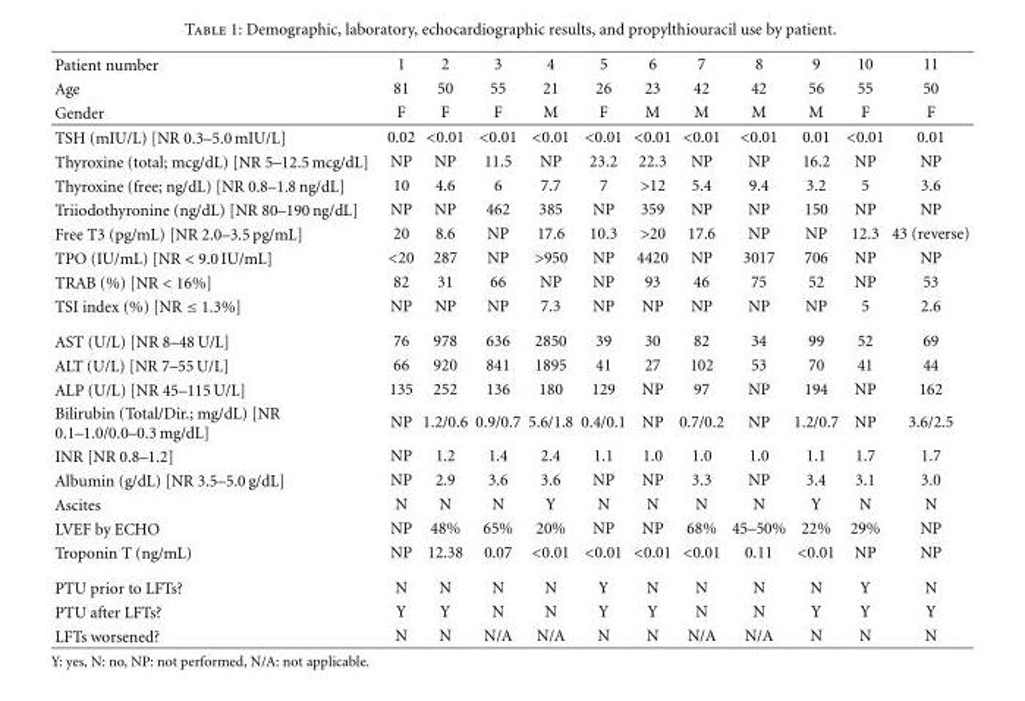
<table><thead><tr><td rowspan="3">Patient number Age Gender</td><td rowspan="3">1 81 F</td><td rowspan="3">2 50 F</td><td rowspan="3">3 55 F</td><td rowspan="3">4 21 M</td><td rowspan="3">5 26 F</td><td rowspan="3">6 23 M</td><td rowspan="3">7 42 M</td><td rowspan="3">8 42 M</td><td rowspan="3">9 56 M</td><td rowspan="3">10 55 F</td><td rowspan="3">11 50 F</td></tr><tr></tr><tr></tr></thead><tbody><tr><td>TSH (mIU/L) [NR 0.3–5.0 mIU/L]</td><td>0.02</td><td>&lt;0.01</td><td>&lt;0.01</td><td>&lt;0.01</td><td>&lt;0.01</td><td>&lt;0.01</td><td>&lt;0.01</td><td>&lt;0.01</td><td>0.01</td><td>&lt;0.01</td><td>0.01</td></tr><tr><td>Thyroxine (total; mcg/dL) [NR 5–12.5 mcg/dL]</td><td>NP</td><td>NP</td><td>11.5</td><td>NP</td><td>23.2</td><td>22.3</td><td>NP</td><td>NP</td><td>16.2</td><td>NP</td><td>NP</td></tr><tr><td>Thyroxine (free; ng/dL) [NR 0.8–1.8 ng/dL]</td><td>10</td><td>4.6</td><td>6</td><td>7.7</td><td>7</td><td>&gt;12</td><td>5.4</td><td>9.4</td><td>3.2</td><td>5</td><td>3.6</td></tr><tr><td>Triiodothyronine (ng/dL) [NR 80–190 ng/dL]</td><td>NP</td><td>NP</td><td>462</td><td>385</td><td>NP</td><td>359</td><td>NP</td><td>NP</td><td>150</td><td>NP</td><td>NP</td></tr><tr><td>Free T3 (pg/mL) [NR 2.0–3.5 pg/mL]</td><td>20</td><td>8.6</td><td>NP</td><td>17.6</td><td>10.3</td><td>&gt;20</td><td>17.6</td><td>NP</td><td>NP</td><td>12.3</td><td>43 (reverse)</td></tr><tr><td>TPO (IU/mL) [NR &lt; 9.0 IU/mL]</td><td>&lt;20</td><td>287</td><td>NP</td><td>&gt;950</td><td>NP</td><td>4420</td><td>NP</td><td>3017</td><td>706</td><td>NP</td><td>NP</td></tr><tr><td>TRAB (%) [NR &lt; 16%]</td><td>82</td><td>31</td><td>66</td><td>NP</td><td>NP</td><td>93</td><td>46</td><td>75</td><td>52</td><td>NP</td><td>53</td></tr><tr><td>TSI index (%) [NR ≤ 1.3%]</td><td>NP</td><td>NP</td><td>NP</td><td>7.3</td><td>NP</td><td>NP</td><td>NP</td><td>NP</td><td>NP</td><td>5</td><td>2.6</td></tr><tr><td>AST (U/L) [NR 8–48 U/L]</td><td>76</td><td>978</td><td>636</td><td>2850</td><td>39</td><td>30</td><td>82</td><td>34</td><td>99</td><td>52</td><td>69</td></tr><tr><td>ALT (U/L) [NR 7–55 U/L]</td><td>66</td><td>920</td><td>841</td><td>1895</td><td>41</td><td>27</td><td>102</td><td>53</td><td>70</td><td>41</td><td>44</td></tr><tr><td>ALP (U/L) [NR 45–115 U/L]</td><td>135</td><td>252</td><td>136</td><td>180</td><td>129</td><td>NP</td><td>97</td><td>NP</td><td>194</td><td>NP</td><td>162</td></tr><tr><td>Bilirubin (Total/Dir.; mg/dL) [NR 0.1–1.0/0.0–0.3 mg/dL]</td><td>NP</td><td>1.2/0.6</td><td>0.9/0.7</td><td>5.6/1.8</td><td>0.4/0.1</td><td>NP</td><td>0.7/0.2</td><td>NP</td><td>1.2/0.7</td><td>NP</td><td>3.6/2.5</td></tr><tr><td>INR [NR 0.8–1.2]</td><td>NP</td><td>1.2</td><td>1.4</td><td>2.4</td><td>1.1</td><td>1.0</td><td>1.0</td><td>1.0</td><td>1.1</td><td>1.7</td><td>1.7</td></tr><tr><td>Albumin (g/dL) [NR 3.5–5.0 g/dL]</td><td>NP</td><td>2.9</td><td>3.6</td><td>3.6</td><td>NP</td><td>NP</td><td>3.3</td><td>NP</td><td>3.4</td><td>3.1</td><td>3.0</td></tr><tr><td>Ascites</td><td>N</td><td>N</td><td>N</td><td>Y</td><td>N</td><td>N</td><td>N</td><td>N</td><td>Y</td><td>N</td><td>N</td></tr><tr><td>LVEF by ECHO</td><td>NP</td><td>48%</td><td>65%</td><td>20%</td><td>NP</td><td>NP</td><td>68%</td><td>45–50%</td><td>22%</td><td>29%</td><td>NP</td></tr><tr><td>Troponin T (ng/mL)</td><td>NP</td><td>12.38</td><td>0.07</td><td>&lt;0.01</td><td>&lt;0.01</td><td>&lt;0.01</td><td>&lt;0.01</td><td>0.11</td><td>&lt;0.01</td><td>NP</td><td>NP</td></tr><tr><td>PTU prior to LFTs?</td><td>N</td><td>N</td><td>N</td><td>N</td><td>Y</td><td>N</td><td>N</td><td>N</td><td>N</td><td>Y</td><td>N</td></tr><tr><td>PTU after LFTs?</td><td>Y</td><td>Y</td><td>N</td><td>N</td><td>Y</td><td>Y</td><td>N</td><td>N</td><td>Y</td><td>Y</td><td>Y</td></tr><tr><td>LFTs worsened?</td><td>N</td><td>N</td><td>N/A</td><td>N/A</td><td>N</td><td>N</td><td>N/A</td><td>N/A</td><td>N</td><td>N</td><td>N</td></tr></tbody></table>